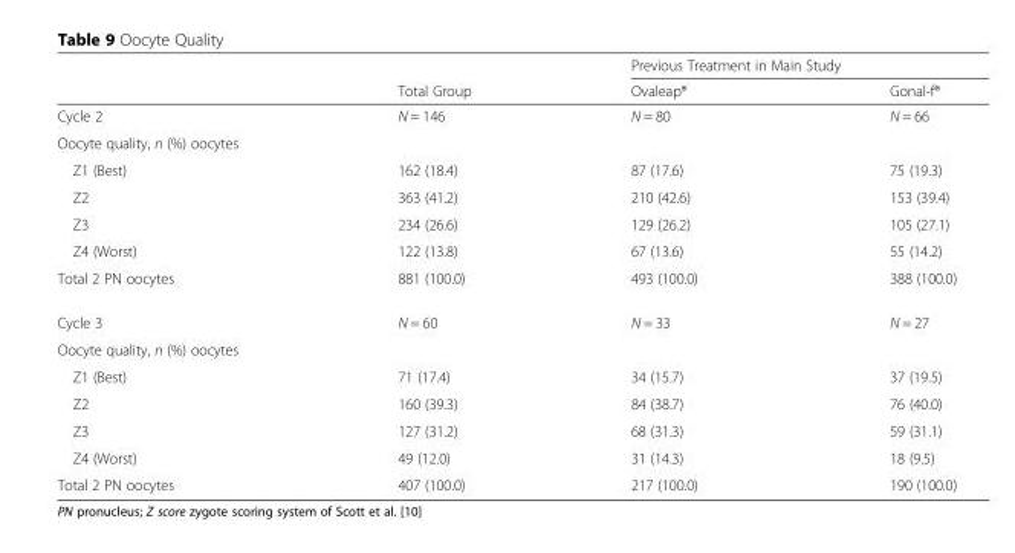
<table><thead><tr><td rowspan="2"></td><td rowspan="2">Total Group</td><td colspan="2">Previous Treatment in Main Study</td></tr><tr><td>Ovaleap®</td><td>Gonal-f®</td></tr></thead><tbody><tr><td>Cycle 2</td><td>N = 146</td><td>N = 80</td><td>N = 66</td></tr><tr><td colspan="4">Oocyte quality, n (%) oocytes</td></tr><tr><td>Z1 (Best)</td><td>162 (18.4)</td><td>87 (17.6)</td><td>75 (19.3)</td></tr><tr><td>Z2</td><td>363 (41.2)</td><td>210 (42.6)</td><td>153 (39.4)</td></tr><tr><td>Z3</td><td>234 (26.6)</td><td>129 (26.2)</td><td>105 (27.1)</td></tr><tr><td>Z4 (Worst)</td><td>122 (13.8)</td><td>67 (13.6)</td><td>55 (14.2)</td></tr><tr><td>Total 2 PN oocytes</td><td>881 (100.0)</td><td>493 (100.0)</td><td>388 (100.0)</td></tr><tr><td>Cycle 3</td><td>N = 60</td><td>N = 33</td><td>N = 27</td></tr><tr><td colspan="4">Oocyte quality, n (%) oocytes</td></tr><tr><td>Z1 (Best)</td><td>71 (17.4)</td><td>34 (15.7)</td><td>37 (19.5)</td></tr><tr><td>Z2</td><td>160 (39.3)</td><td>84 (38.7)</td><td>76 (40.0)</td></tr><tr><td>Z3</td><td>127 (31.2)</td><td>68 (31.3)</td><td>59 (31.1)</td></tr><tr><td>Z4 (Worst)</td><td>49 (12.0)</td><td>31 (14.3)</td><td>18 (9.5)</td></tr><tr><td>Total 2 PN oocytes</td><td>407 (100.0)</td><td>217 (100.0)</td><td>190 (100.0)</td></tr></tbody></table>